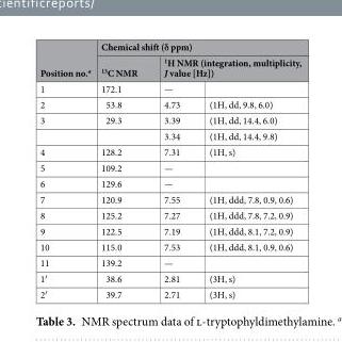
<table><thead><tr><td rowspan="3">Position no.<sup>a</sup> 1</td><td colspan="3">Chemical shift (δ ppm)</td></tr><tr><td rowspan="2"><sup>13</sup>C NMR 172.1</td><td colspan="2"><sup>1</sup>H NMR (integration, multiplicity, J value [Hz])</td></tr><tr><td>—</td><td></td></tr></thead><tbody><tr><td>2</td><td>53.8</td><td>4.73</td><td>(1H, dd, 9.8, 6.0)</td></tr><tr><td rowspan="2">3</td><td>29.3</td><td>3.39</td><td>(1H, dd, 14.4, 6.0)</td></tr><tr><td></td><td>3.34</td><td>(1H, dd, 14.4, 9.8)</td></tr><tr><td>4</td><td>128.2</td><td>7.31</td><td>(1H, s)</td></tr><tr><td>5</td><td>109.2</td><td>—</td><td></td></tr><tr><td>6</td><td>129.6</td><td>—</td><td></td></tr><tr><td>7</td><td>120.9</td><td>7.55</td><td>(1H, ddd, 7.8, 0.9, 0.6)</td></tr><tr><td>8</td><td>125.2</td><td>7.27</td><td>(1H, ddd, 7.8, 7.2, 0.9)</td></tr><tr><td>9</td><td>122.5</td><td>7.19</td><td>(1H, ddd, 8.1, 7.2, 0.9)</td></tr><tr><td>10</td><td>115.0</td><td>7.53</td><td>(1H, ddd, 8.1, 0.9, 0.6)</td></tr><tr><td>11</td><td>139.2</td><td>—</td><td></td></tr><tr><td>1′</td><td>38.6</td><td>2.81</td><td>(3H, s)</td></tr><tr><td>2′</td><td>39.7</td><td>2.71</td><td>(3H, s)</td></tr></tbody></table>